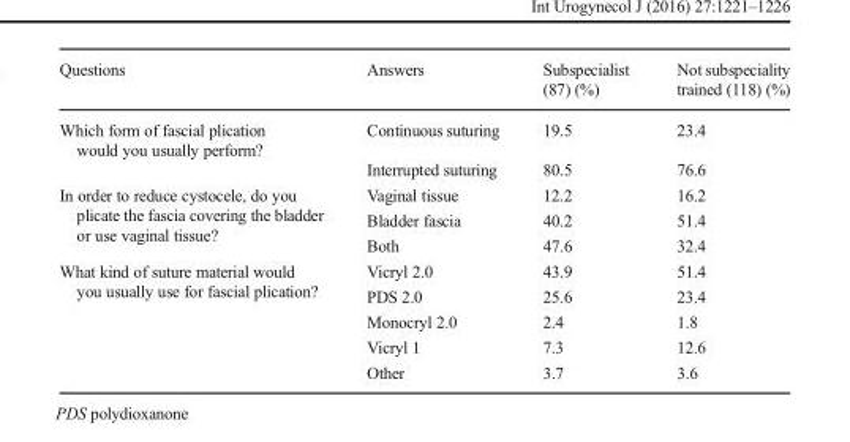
<table><thead><tr><td>Questions</td><td>Answers</td><td>Subspecialist (87) (%)</td><td>Not subspeciality trained (118) (%)</td></tr></thead><tbody><tr><td rowspan="2">Which form of fascial plication would you usually perform?</td><td>Continuous suturing</td><td>19.5</td><td>23.4</td></tr><tr><td>Interrupted suturing</td><td>80.5</td><td>76.6</td></tr><tr><td rowspan="3">In order to reduce cystocele, do you plicate the fascia covering the bladder or use vaginal tissue?</td><td>Vaginal tissue</td><td>12.2</td><td>16.2</td></tr><tr><td>Bladder fascia</td><td>40.2</td><td>51.4</td></tr><tr><td>Both</td><td>47.6</td><td>32.4</td></tr><tr><td rowspan="5">What kind of suture material would you usually use for fascial plication?</td><td>Vicryl 2.0</td><td>43.9</td><td>51.4</td></tr><tr><td>PDS 2.0</td><td>25.6</td><td>23.4</td></tr><tr><td>Monocryl 2.0</td><td>2.4</td><td>1.8</td></tr><tr><td>Vicryl 1</td><td>7.3</td><td>12.6</td></tr><tr><td>Other</td><td>3.7</td><td>3.6</td></tr></tbody></table>